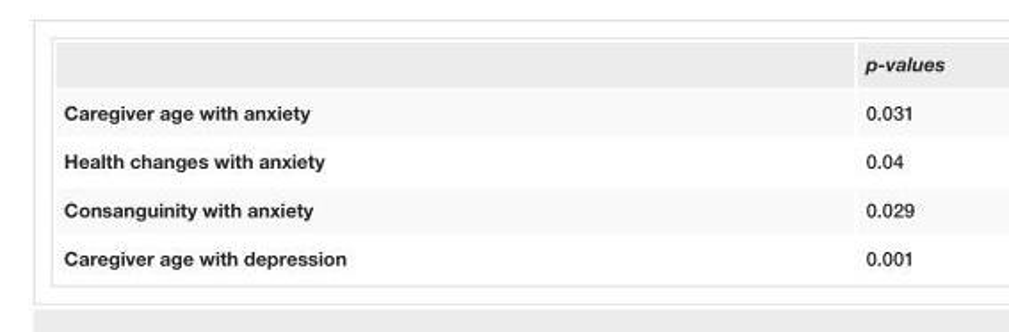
<table><thead><tr><td></td><td>p-values</td></tr></thead><tbody><tr><td>Caregiver age with anxiety</td><td>0.031</td></tr><tr><td>Health changes with anxiety</td><td>0.04</td></tr><tr><td>Consanguinity with anxiety</td><td>0.029</td></tr><tr><td>Caregiver age with depression</td><td>0.001</td></tr></tbody></table>